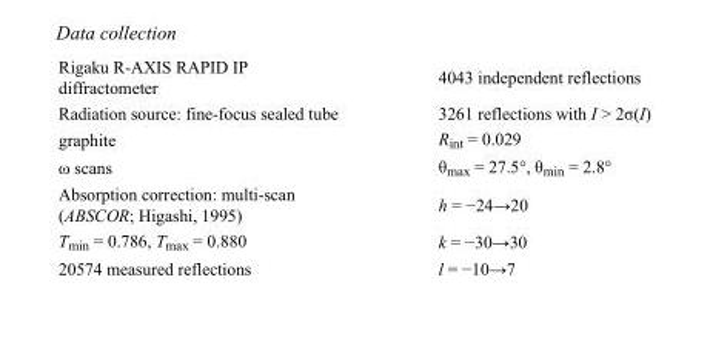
<table><tbody><tr><td>Rigaku R-AXIS RAPID IP diffractometer</td><td>4043 independent reflections</td></tr><tr><td>Radiation source: fine-focus sealed tube</td><td>3261 reflections with I &gt; 2σ(I)</td></tr><tr><td>graphite</td><td>R<sub>int</sub> = 0.029</td></tr><tr><td>ω scans</td><td>θ<sub>max</sub> = 27.5°, θ<sub>min</sub> = 2.8°</td></tr><tr><td>Absorption correction: multi-scan (ABSCOR; Higashi, 1995)</td><td>h = −24→20</td></tr><tr><td>T<sub>min</sub> = 0.786, T<sub>max</sub> = 0.880</td><td>k = −30→30</td></tr><tr><td>20574 measured reflections</td><td>l = −10→7</td></tr></tbody></table>